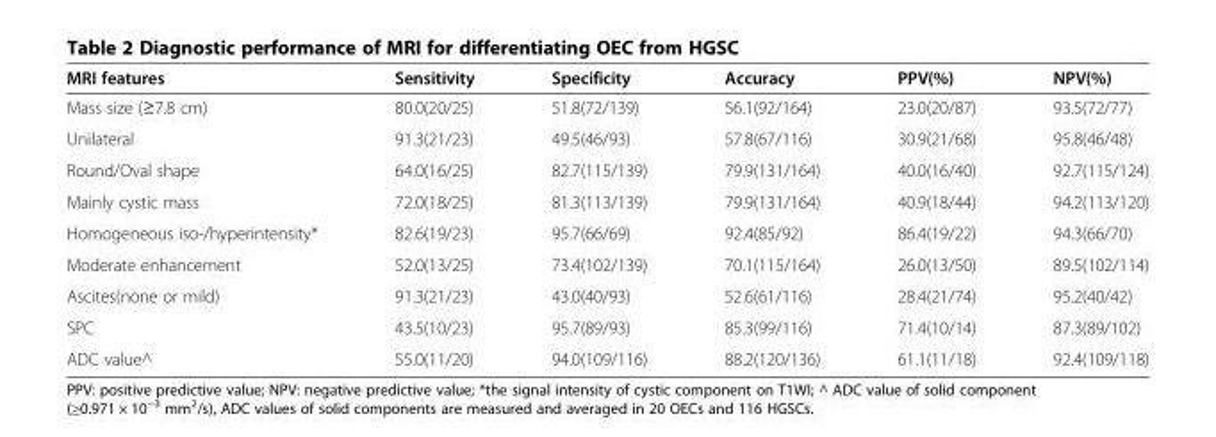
<table><thead><tr><td>MRI features</td><td>Sensitivity</td><td>Specificity</td><td>Accuracy</td><td>PPV(%)</td><td>NPV(%)</td></tr></thead><tbody><tr><td>Mass size (≥7.8 cm)</td><td>80.0(20/25)</td><td>51.8(72/139)</td><td>56.1(92/164)</td><td>23.0(20/87)</td><td>93.5(72/77)</td></tr><tr><td>Unilateral</td><td>91.3(21/23)</td><td>49.5(46/93)</td><td>57.8(67/116)</td><td>30.9(21/68)</td><td>95.8(46/48)</td></tr><tr><td>Round/Oval shape</td><td>64.0(16/25)</td><td>82.7(115/139)</td><td>79.9(131/164)</td><td>40.0(16/40)</td><td>92.7(115/124)</td></tr><tr><td>Mainly cystic mass</td><td>72.0(18/25)</td><td>81.3(113/139)</td><td>79.9(131/164)</td><td>40.9(18/44)</td><td>94.2(113/120)</td></tr><tr><td>Homogeneous iso-/hyperintensity*</td><td>82.6(19/23)</td><td>95.7(66/69)</td><td>92.4(85/92)</td><td>86.4(19/22)</td><td>94.3(66/70)</td></tr><tr><td>Moderate enhancement</td><td>52.0(13/25)</td><td>73.4(102/139)</td><td>70.1(115/164)</td><td>26.0(13/50)</td><td>89.5(102/114)</td></tr><tr><td>Ascites(none or mild)</td><td>91.3(21/23)</td><td>43.0(40/93)</td><td>52.6(61/116)</td><td>28.4(21/74)</td><td>95.2(40/42)</td></tr><tr><td>SPC</td><td>43.5(10/23)</td><td>95.7(89/93)</td><td>85.3(99/116)</td><td>71.4(10/14)</td><td>87.3(89/102)</td></tr><tr><td>ADC value^</td><td>55.0(11/20)</td><td>94.0(109/116)</td><td>88.2(120/136)</td><td>61.1(11/18)</td><td>92.4(109/118)</td></tr></tbody></table>